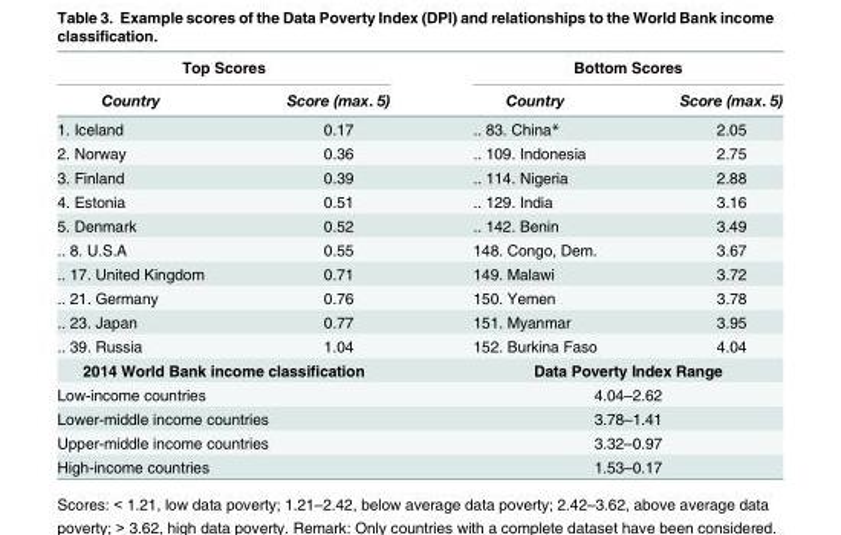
<table><thead><tr><td colspan="2">Top Scores</td><td colspan="2">Bottom Scores</td></tr><tr><td>Country</td><td>Score (max. 5)</td><td>Country</td><td>Score (max. 5)</td></tr></thead><tbody><tr><td>1. Iceland</td><td>0.17</td><td>.. 83. China*</td><td>2.05</td></tr><tr><td>2. Norway</td><td>0.36</td><td>.. 109. Indonesia</td><td>2.75</td></tr><tr><td>3. Finland</td><td>0.39</td><td>.. 114. Nigeria</td><td>2.88</td></tr><tr><td>4. Estonia</td><td>0.51</td><td>.. 129. India</td><td>3.16</td></tr><tr><td>5. Denmark</td><td>0.52</td><td>.. 142. Benin</td><td>3.49</td></tr><tr><td>.. 8. U.S.A</td><td>0.55</td><td>148. Congo, Dem.</td><td>3.67</td></tr><tr><td>.. 17. United Kingdom</td><td>0.71</td><td>149. Malawi</td><td>3.72</td></tr><tr><td>.. 21. Germany</td><td>0.76</td><td>150. Yemen</td><td>3.78</td></tr><tr><td>.. 23. Japan</td><td>0.77</td><td>151. Myanmar</td><td>3.95</td></tr><tr><td>.. 39. Russia</td><td>1.04</td><td>152. Burkina Faso</td><td>4.04</td></tr><tr><td colspan="2">2014 World Bank income classification</td><td colspan="2">Data Poverty Index Range</td></tr><tr><td colspan="2">Low-income countries</td><td colspan="2">4.04–2.62</td></tr><tr><td colspan="2">Lower-middle income countries</td><td colspan="2">3.78–1.41</td></tr><tr><td colspan="2">Upper-middle income countries</td><td colspan="2">3.32–0.97</td></tr><tr><td colspan="2">High-income countries</td><td colspan="2">1.53–0.17</td></tr></tbody></table>